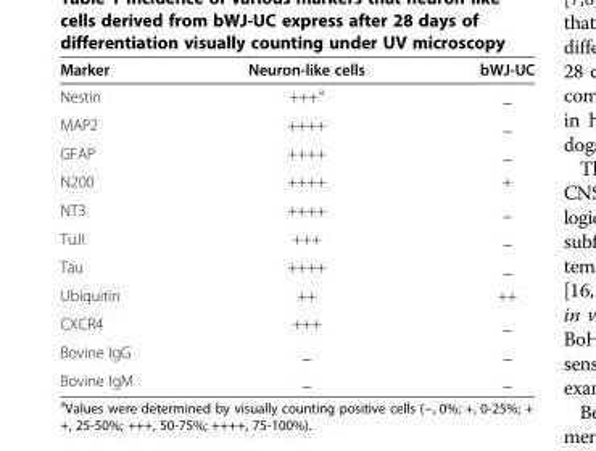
<table><thead><tr><td>Marker</td><td>Neuron-like cells</td><td>bWJ-UC</td></tr></thead><tbody><tr><td>Nestin</td><td>+++<sup>a</sup></td><td>_</td></tr><tr><td>MAP2</td><td>++++</td><td>_</td></tr><tr><td>GFAP</td><td>++++</td><td>_</td></tr><tr><td>N200</td><td>++++</td><td>+</td></tr><tr><td>NT3</td><td>++++</td><td>_</td></tr><tr><td>TuJI</td><td>+++</td><td>_</td></tr><tr><td>Tau</td><td>++++</td><td>_</td></tr><tr><td>Ubiquitin</td><td>++</td><td>++</td></tr><tr><td>CXCR4</td><td>+++</td><td>_</td></tr><tr><td>Bovine IgG</td><td>_</td><td>_</td></tr><tr><td>Bovine IgM</td><td>_</td><td>_</td></tr></tbody></table>